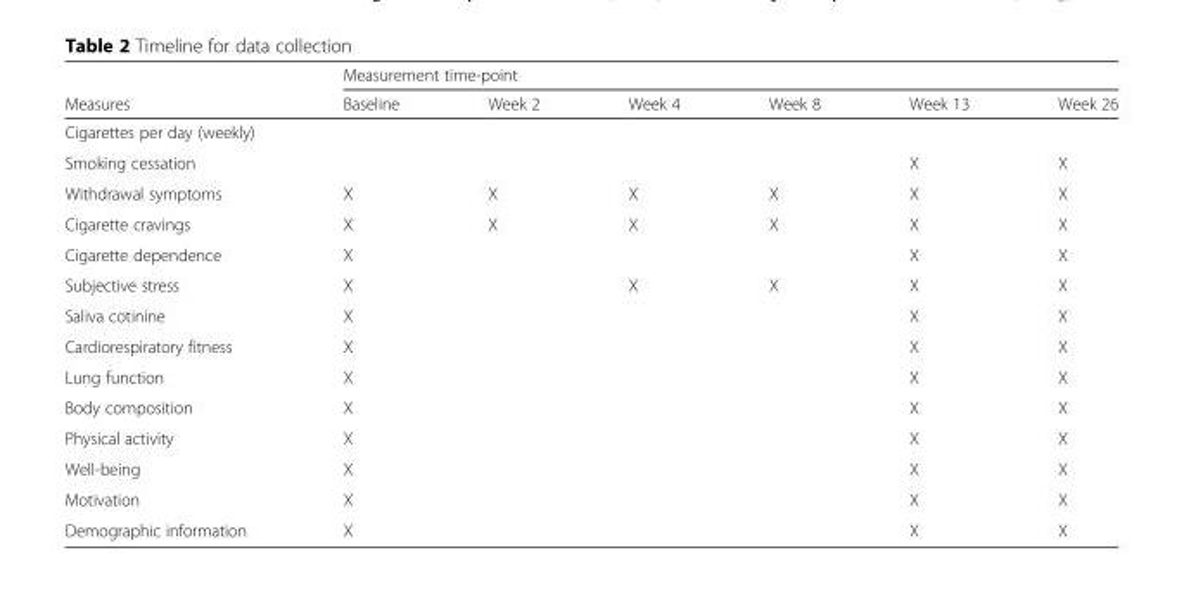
<table><thead><tr><td rowspan="2">Measures</td><td colspan="6">Measurement time-point</td></tr><tr><td>Baseline</td><td>Week 2</td><td>Week 4</td><td>Week 8</td><td>Week 13</td><td>Week 26</td></tr></thead><tbody><tr><td colspan="7">Cigarettes per day (weekly)</td></tr><tr><td>Smoking cessation</td><td></td><td></td><td></td><td></td><td>X</td><td>X</td></tr><tr><td>Withdrawal symptoms</td><td>X</td><td>X</td><td>X</td><td>X</td><td>X</td><td>X</td></tr><tr><td>Cigarette cravings</td><td>X</td><td>X</td><td>X</td><td>X</td><td>X</td><td>X</td></tr><tr><td>Cigarette dependence</td><td>X</td><td></td><td></td><td></td><td>X</td><td>X</td></tr><tr><td>Subjective stress</td><td>X</td><td></td><td>X</td><td>X</td><td>X</td><td>X</td></tr><tr><td>Saliva cotinine</td><td>X</td><td></td><td></td><td></td><td>X</td><td>X</td></tr><tr><td>Cardiorespiratory fitness</td><td>X</td><td></td><td></td><td></td><td>X</td><td>X</td></tr><tr><td>Lung function</td><td>X</td><td></td><td></td><td></td><td>X</td><td>X</td></tr><tr><td>Body composition</td><td>X</td><td></td><td></td><td></td><td>X</td><td>X</td></tr><tr><td>Physical activity</td><td>X</td><td></td><td></td><td></td><td>X</td><td>X</td></tr><tr><td>Well-being</td><td>X</td><td></td><td></td><td></td><td>X</td><td>X</td></tr><tr><td>Motivation</td><td>X</td><td></td><td></td><td></td><td>X</td><td>X</td></tr><tr><td>Demographic information</td><td>X</td><td></td><td></td><td></td><td>X</td><td>X</td></tr></tbody></table>